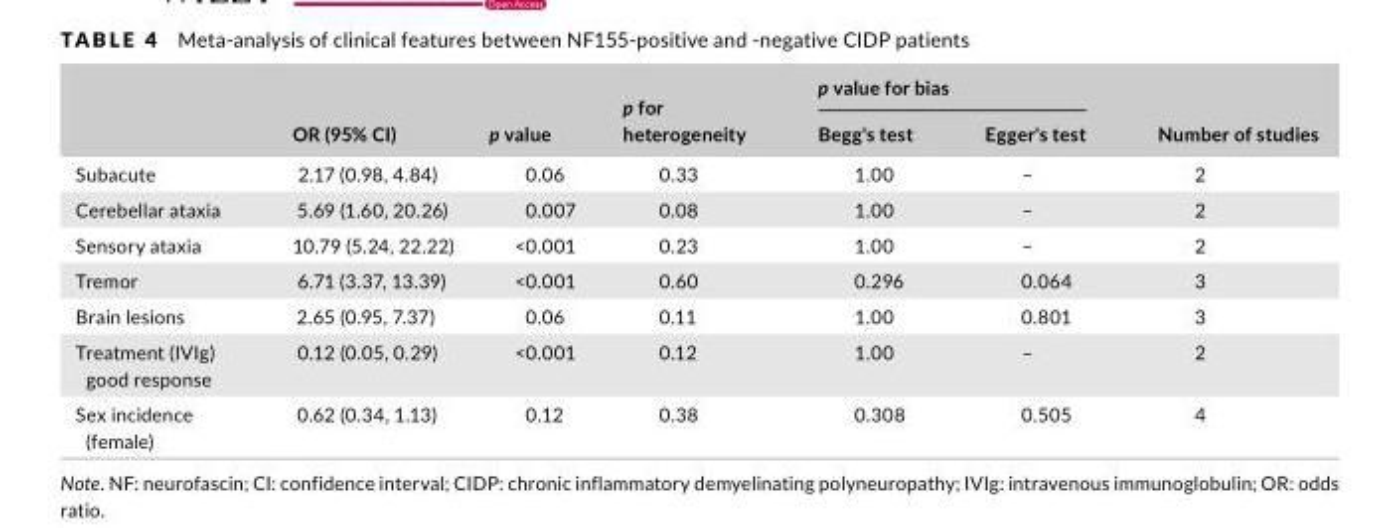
<table><thead><tr><td rowspan="2"></td><td rowspan="2">OR (95% CI)</td><td rowspan="2">p value</td><td rowspan="2">p for heterogeneity</td><td colspan="2">p value for bias</td><td rowspan="2">Number of studies</td></tr><tr><td>Begg&#x27;s test</td><td>Egger&#x27;s test</td></tr></thead><tbody><tr><td>Subacute</td><td>2.17 (0.98, 4.84)</td><td>0.06</td><td>0.33</td><td>1.00</td><td>–</td><td>2</td></tr><tr><td>Cerebellar ataxia</td><td>5.69 (1.60, 20.26)</td><td>0.007</td><td>0.08</td><td>1.00</td><td>–</td><td>2</td></tr><tr><td>Sensory ataxia</td><td>10.79 (5.24, 22.22)</td><td>&lt;0.001</td><td>0.23</td><td>1.00</td><td>–</td><td>2</td></tr><tr><td>Tremor</td><td>6.71 (3.37, 13.39)</td><td>&lt;0.001</td><td>0.60</td><td>0.296</td><td>0.064</td><td>3</td></tr><tr><td>Brain lesions</td><td>2.65 (0.95, 7.37)</td><td>0.06</td><td>0.11</td><td>1.00</td><td>0.801</td><td>3</td></tr><tr><td>Treatment (IVIg) good response</td><td>0.12 (0.05, 0.29)</td><td>&lt;0.001</td><td>0.12</td><td>1.00</td><td>–</td><td>2</td></tr><tr><td>Sex incidence (female)</td><td>0.62 (0.34, 1.13)</td><td>0.12</td><td>0.38</td><td>0.308</td><td>0.505</td><td>4</td></tr></tbody></table>